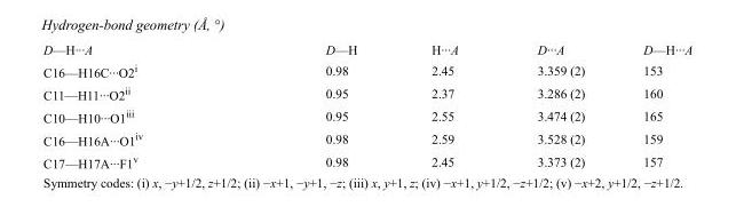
<table><tbody><tr><td>D—H···A</td><td>D—H</td><td>H···A</td><td>D···A</td><td>D—H···A</td></tr><tr><td>C16—H16C···O2<sup>i</sup></td><td>0.98</td><td>2.45</td><td>3.359 (2)</td><td>153</td></tr><tr><td>C11—H11···O2<sup>ii</sup></td><td>0.95</td><td>2.37</td><td>3.286 (2)</td><td>160</td></tr><tr><td>C10—H10···O1<sup>iii</sup></td><td>0.95</td><td>2.55</td><td>3.474 (2)</td><td>165</td></tr><tr><td>C16—H16A···O1<sup>iv</sup></td><td>0.98</td><td>2.59</td><td>3.528 (2)</td><td>159</td></tr><tr><td>C17—H17A···F1<sup>v</sup></td><td>0.98</td><td>2.45</td><td>3.373 (2)</td><td>157</td></tr></tbody></table>